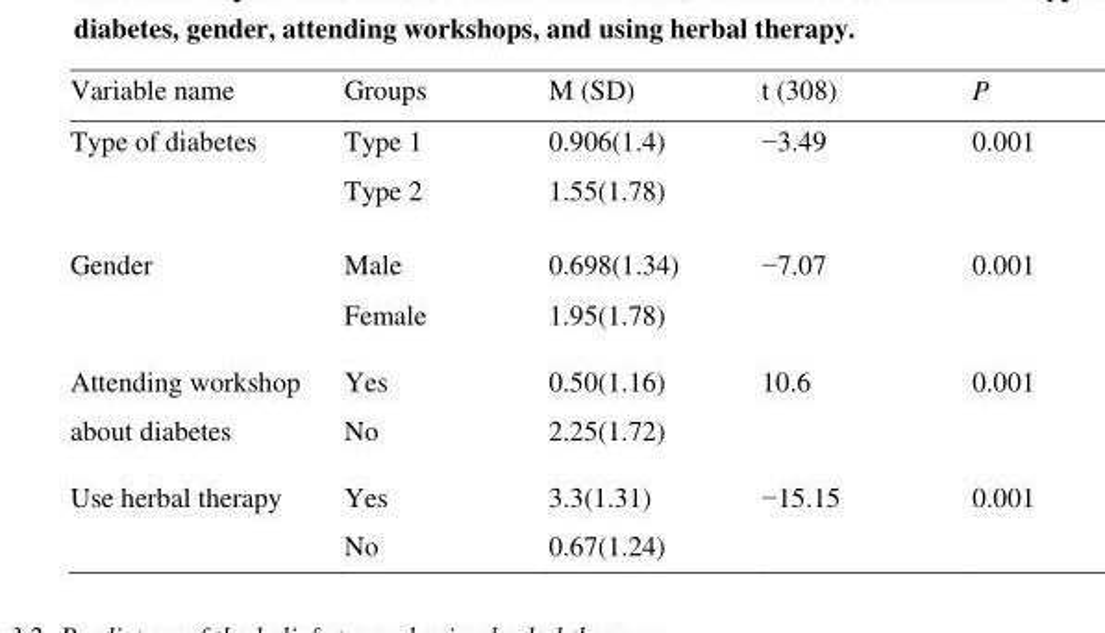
<table><thead><tr><td>Variable name</td><td>Groups</td><td>M (SD)</td><td>t (308)</td><td>P</td></tr></thead><tbody><tr><td rowspan="2">Type of diabetes</td><td>Type 1</td><td>0.906(1.4)</td><td>−3.49</td><td>0.001</td></tr><tr><td>Type 2</td><td>1.55(1.78)</td><td></td><td></td></tr><tr><td rowspan="2">Gender</td><td>Male</td><td>0.698(1.34)</td><td>−7.07</td><td>0.001</td></tr><tr><td>Female</td><td>1.95(1.78)</td><td></td><td></td></tr><tr><td rowspan="2">Attending workshop about diabetes</td><td>Yes</td><td>0.50(1.16)</td><td>10.6</td><td>0.001</td></tr><tr><td>No</td><td>2.25(1.72)</td><td></td><td></td></tr><tr><td rowspan="2">Use herbal therapy</td><td>Yes</td><td>3.3(1.31)</td><td>−15.15</td><td>0.001</td></tr><tr><td>No</td><td>0.67(1.24)</td><td></td><td></td></tr></tbody></table>